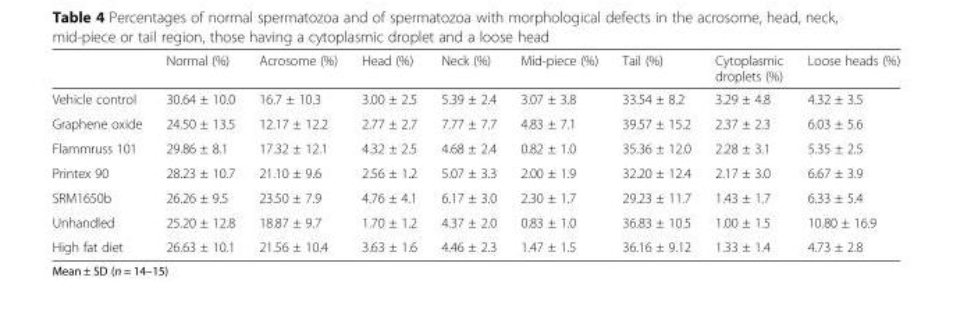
<table><thead><tr><td></td><td>Normal (%)</td><td>Acrosome (%)</td><td>Head (%)</td><td>Neck (%)</td><td>Mid-piece (%)</td><td>Tail (%)</td><td>Cytoplasmic droplets (%)</td><td>Loose heads (%)</td></tr></thead><tbody><tr><td>Vehicle control</td><td>30.64 ± 10.0</td><td>16.7 ± 10.3</td><td>3.00 ± 2.5</td><td>5.39 ± 2.4</td><td>3.07 ± 3.8</td><td>33.54 ± 8.2</td><td>3.29 ± 4.8</td><td>4.32 ± 3.5</td></tr><tr><td>Graphene oxide</td><td>24.50 ± 13.5</td><td>12.17 ± 12.2</td><td>2.77 ± 2.7</td><td>7.77 ± 7.7</td><td>4.83 ± 7.1</td><td>39.57 ± 15.2</td><td>2.37 ± 2.3</td><td>6.03 ± 5.6</td></tr><tr><td>Flammruss 101</td><td>29.86 ± 8.1</td><td>17.32 ± 12.1</td><td>4.32 ± 2.5</td><td>4.68 ± 2.4</td><td>0.82 ± 1.0</td><td>35.36 ± 12.0</td><td>2.28 ± 3.1</td><td>5.35 ± 2.5</td></tr><tr><td>Printex 90</td><td>28.23 ± 10.7</td><td>21.10 ± 9.6</td><td>2.56 ± 1.2</td><td>5.07 ± 3.3</td><td>2.00 ± 1.9</td><td>32.20 ± 12.4</td><td>2.17 ± 3.0</td><td>6.67 ± 3.9</td></tr><tr><td>SRM1650b</td><td>26.26 ± 9.5</td><td>23.50 ± 7.9</td><td>4.76 ± 4.1</td><td>6.17 ± 3.0</td><td>2.30 ± 1.7</td><td>29.23 ± 11.7</td><td>1.43 ± 1.7</td><td>6.33 ± 5.4</td></tr><tr><td>Unhandled</td><td>25.20 ± 12.8</td><td>18.87 ± 9.7</td><td>1.70 ± 1.2</td><td>4.37 ± 2.0</td><td>0.83 ± 1.0</td><td>36.83 ± 10.5</td><td>1.00 ± 1.5</td><td>10.80 ± 16.9</td></tr><tr><td>High fat diet</td><td>26.63 ± 10.1</td><td>21.56 ± 10.4</td><td>3.63 ± 1.6</td><td>4.46 ± 2.3</td><td>1.47 ± 1.5</td><td>36.16 ± 9.12</td><td>1.33 ± 1.4</td><td>4.73 ± 2.8</td></tr></tbody></table>